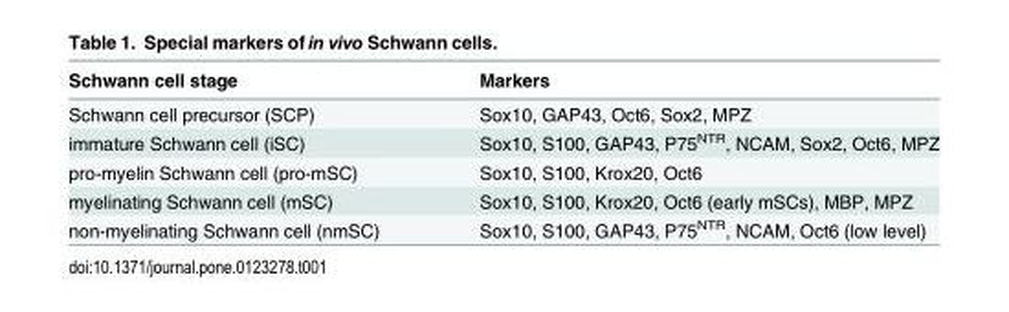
<table><thead><tr><td>Schwann cell stage</td><td>Markers</td></tr></thead><tbody><tr><td>Schwann cell precursor (SCP)</td><td>Sox10, GAP43, Oct6, Sox2, MPZ</td></tr><tr><td>immature Schwann cell (iSC)</td><td>Sox10, S100, GAP43, P75<sup>NTR</sup>, NCAM, Sox2, Oct6, MPZ</td></tr><tr><td>pro-myelin Schwann cell (pro-mSC)</td><td>Sox10, S100, Krox20, Oct6</td></tr><tr><td>myelinating Schwann cell (mSC)</td><td>Sox10, S100, Krox20, Oct6 (early mSCs), MBP, MPZ</td></tr><tr><td>non-myelinating Schwann cell (nmSC)</td><td>Sox10, S100, GAP43, P75<sup>NTR</sup>, NCAM, Oct6 (low level)</td></tr></tbody></table>